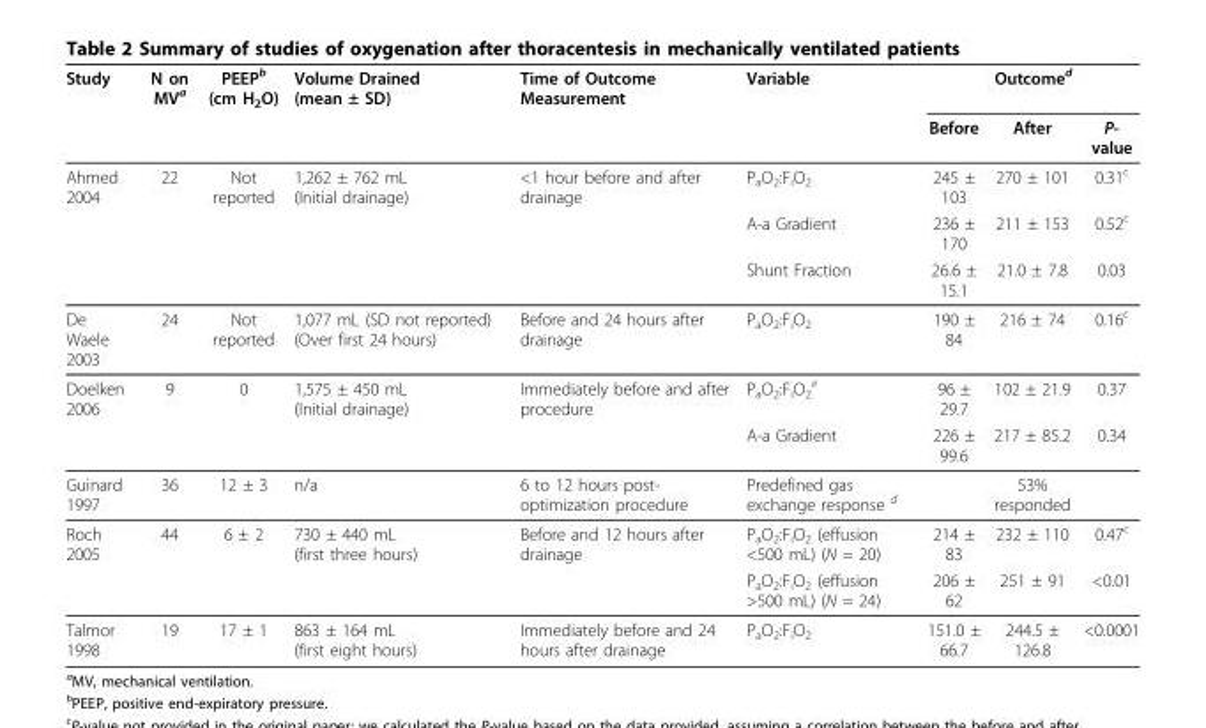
<table><thead><tr><td rowspan="2">Study</td><td rowspan="2">N on MV<sup>a</sup></td><td rowspan="2">PEEP<sup>b</sup> (cm H<sub>2</sub>O)</td><td rowspan="2">Volume Drained (mean ± SD)</td><td rowspan="2">Time of Outcome Measurement</td><td rowspan="2">Variable</td><td colspan="3">Outcome<sup>d</sup></td></tr><tr><td>Before</td><td>After</td><td>P- value</td></tr></thead><tbody><tr><td rowspan="3">Ahmed 2004</td><td>22</td><td>Not reported</td><td>1,262 ± 762 mL (Initial drainage)</td><td>&lt;1 hour before and after drainage</td><td>P<sub>a</sub>O<sub>2</sub>:F<sub>i</sub>O<sub>2</sub></td><td>245 ± 103</td><td>270 ± 101</td><td>0.31<sup>c</sup></td></tr><tr><td></td><td></td><td></td><td></td><td>A-a Gradient</td><td>236 ± 170</td><td>211 ± 153</td><td>0.52<sup>c</sup></td></tr><tr><td></td><td></td><td></td><td></td><td>Shunt Fraction</td><td>26.6 ± 15.1</td><td>21.0 ± 7.8</td><td>0.03</td></tr><tr><td>De Waele 2003</td><td>24</td><td>Not reported</td><td>1,077 mL (SD not reported) (Over first 24 hours)</td><td>Before and 24 hours after drainage</td><td>P<sub>a</sub>O<sub>2</sub>:F<sub>i</sub>O<sub>2</sub></td><td>190 ± 84</td><td>216 ± 74</td><td>0.16<sup>c</sup></td></tr><tr><td rowspan="2">Doelken 2006</td><td>9</td><td>0</td><td>1,575 ± 450 mL (Initial drainage)</td><td>Immediately before and after procedure</td><td>P<sub>a</sub>O<sub>2</sub>:F<sub>i</sub>O<sub>2</sub> <sup>e</sup></td><td>96 ± 29.7</td><td>102 ± 21.9</td><td>0.37</td></tr><tr><td></td><td></td><td></td><td></td><td>A-a Gradient</td><td>226 ± 99.6</td><td>217 ± 85.2</td><td>0.34</td></tr><tr><td>Guinard 1997</td><td>36</td><td>12 ± 3</td><td>n/a</td><td>6 to 12 hours post- optimization procedure</td><td>Predefined gas exchange response <sup>d</sup></td><td></td><td>53% responded</td><td></td></tr><tr><td rowspan="2">Roch 2005</td><td>44</td><td>6 ± 2</td><td>730 ± 440 mL (first three hours)</td><td>Before and 12 hours after drainage</td><td>P<sub>a</sub>O<sub>2</sub>:F<sub>i</sub>O<sub>2</sub> (effusion &lt;500 mL) (N = 20)</td><td>214 ± 83</td><td>232 ± 110</td><td>0.47<sup>c</sup></td></tr><tr><td></td><td></td><td></td><td></td><td>P<sub>a</sub>O<sub>2</sub>:F<sub>i</sub>O<sub>2</sub> (effusion &gt;500 mL) (N = 24)</td><td>206 ± 62</td><td>251 ± 91</td><td>&lt;0.01</td></tr><tr><td>Talmor 1998</td><td>19</td><td>17 ± 1</td><td>863 ± 164 mL (first eight hours)</td><td>Immediately before and 24 hours after drainage</td><td>P<sub>a</sub>O<sub>2</sub>:F<sub>i</sub>O<sub>2</sub></td><td>151.0 ± 66.7</td><td>244.5 ± 126.8</td><td>&lt;0.0001</td></tr></tbody></table>